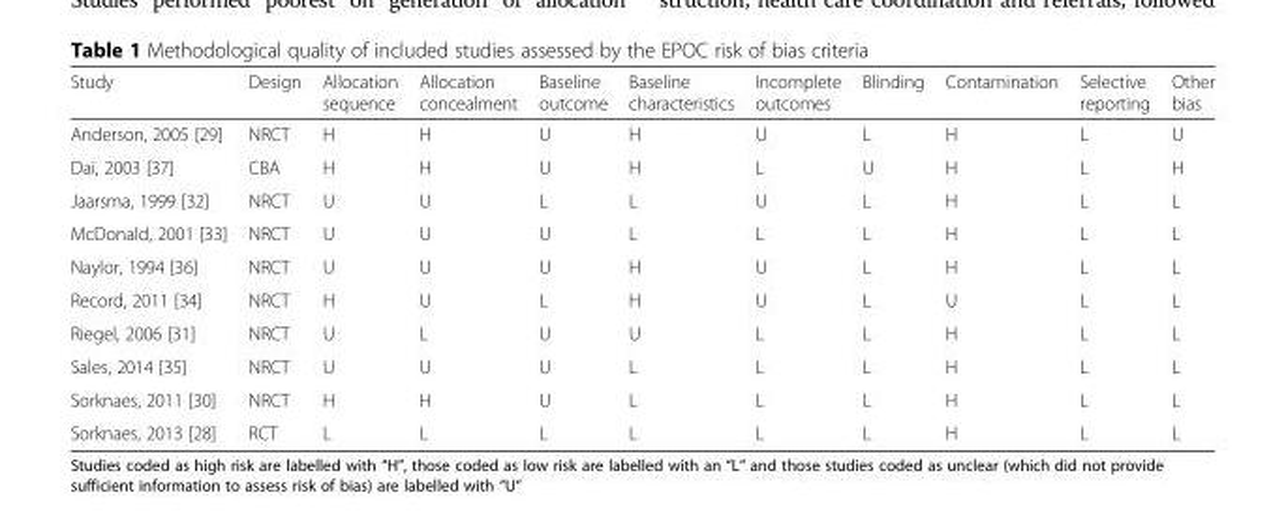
<table><thead><tr><td>Study</td><td>Design</td><td>Allocation sequence</td><td>Allocation concealment</td><td>Baseline outcome</td><td>Baseline characteristics</td><td>Incomplete outcomes</td><td>Blinding</td><td>Contamination</td><td>Selective reporting</td><td>Other bias</td></tr></thead><tbody><tr><td>Anderson, 2005 [29]</td><td>NRCT</td><td>H</td><td>H</td><td>U</td><td>H</td><td>U</td><td>L</td><td>H</td><td>L</td><td>U</td></tr><tr><td>Dai, 2003 [37]</td><td>CBA</td><td>H</td><td>H</td><td>U</td><td>H</td><td>L</td><td>U</td><td>H</td><td>L</td><td>H</td></tr><tr><td>Jaarsma, 1999 [32]</td><td>NRCT</td><td>U</td><td>U</td><td>L</td><td>L</td><td>U</td><td>L</td><td>H</td><td>L</td><td>L</td></tr><tr><td>McDonald, 2001 [33]</td><td>NRCT</td><td>U</td><td>U</td><td>U</td><td>L</td><td>L</td><td>L</td><td>H</td><td>L</td><td>L</td></tr><tr><td>Naylor, 1994 [36]</td><td>NRCT</td><td>U</td><td>U</td><td>U</td><td>H</td><td>U</td><td>L</td><td>H</td><td>L</td><td>L</td></tr><tr><td>Record, 2011 [34]</td><td>NRCT</td><td>H</td><td>U</td><td>L</td><td>H</td><td>U</td><td>L</td><td>U</td><td>L</td><td>L</td></tr><tr><td>Riegel, 2006 [31]</td><td>NRCT</td><td>U</td><td>L</td><td>U</td><td>U</td><td>L</td><td>L</td><td>H</td><td>L</td><td>L</td></tr><tr><td>Sales, 2014 [35]</td><td>NRCT</td><td>U</td><td>U</td><td>U</td><td>L</td><td>L</td><td>L</td><td>H</td><td>L</td><td>L</td></tr><tr><td>Sorknaes, 2011 [30]</td><td>NRCT</td><td>H</td><td>H</td><td>U</td><td>L</td><td>L</td><td>L</td><td>H</td><td>L</td><td>L</td></tr><tr><td>Sorknaes, 2013 [28]</td><td>RCT</td><td>L</td><td>L</td><td>L</td><td>L</td><td>L</td><td>L</td><td>H</td><td>L</td><td>L</td></tr></tbody></table>